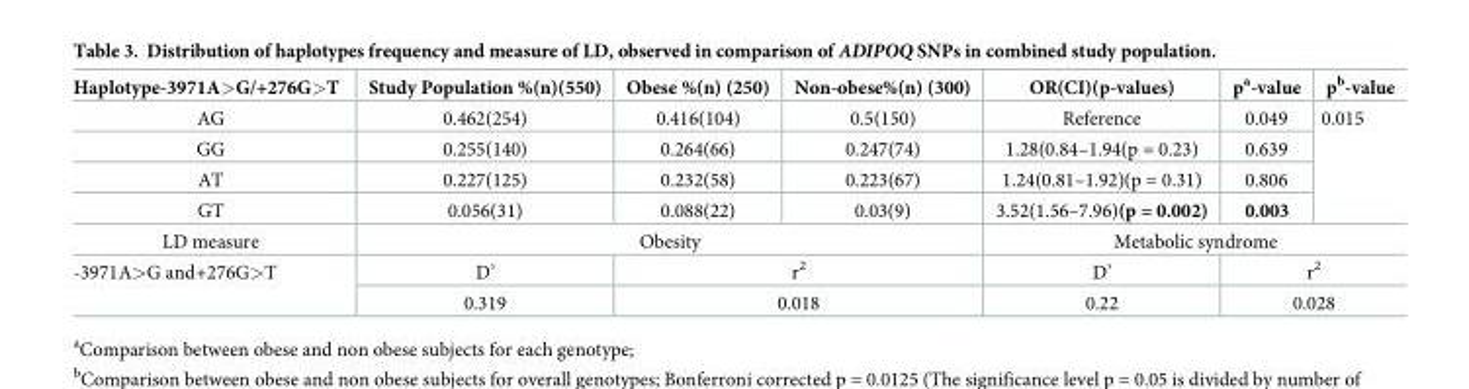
<table><thead><tr><td>Haplotype-3971A&gt;G/+276G&gt;T</td><td>Study Population %(n)(550)</td><td>Obese %(n) (250)</td><td>Non-obese%(n) (300)</td><td>OR(CI)(p-values)</td><td>p<sup>a</sup>-value</td><td>p<sup>b</sup>-value</td></tr></thead><tbody><tr><td>AG</td><td>0.462(254)</td><td>0.416(104)</td><td>0.5(150)</td><td>Reference</td><td>0.049</td><td rowspan="4">0.015</td></tr><tr><td>GG</td><td>0.255(140)</td><td>0.264(66)</td><td>0.247(74)</td><td>1.28(0.84–1.94(p = 0.23)</td><td>0.639</td></tr><tr><td>AT</td><td>0.227(125)</td><td>0.232(58)</td><td>0.223(67)</td><td>1.24(0.81–1.92)(p = 0.31)</td><td>0.806</td></tr><tr><td>GT</td><td>0.056(31)</td><td>0.088(22)</td><td>0.03(9)</td><td>3.52(1.56–7.96)(p = 0.002)</td><td>0.003</td></tr><tr><td>LD measure</td><td colspan="3">Obesity</td><td colspan="3">Metabolic syndrome</td></tr><tr><td rowspan="2">-3971A&gt;G and+276G&gt;T</td><td>D’</td><td colspan="2">r<sup>2</sup></td><td>D’</td><td colspan="2">r<sup>2</sup></td></tr><tr><td>0.319</td><td colspan="2">0.018</td><td>0.22</td><td colspan="2">0.028</td></tr></tbody></table>